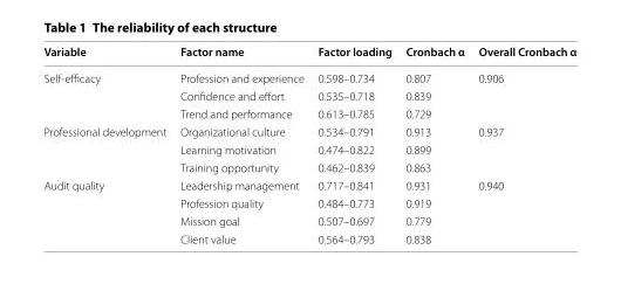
<table><thead><tr><td>Variable</td><td>Factor name</td><td>Factor loading</td><td>Cronbach α</td><td>Overall Cronbach α</td></tr></thead><tbody><tr><td rowspan="3">Self‑efficacy</td><td>Profession and experience</td><td>0.598–0.734</td><td>0.807</td><td rowspan="3">0.906</td></tr><tr><td>Confidence and effort</td><td>0.535–0.718</td><td>0.839</td></tr><tr><td>Trend and performance</td><td>0.613–0.785</td><td>0.729</td></tr><tr><td rowspan="3">Professional development</td><td>Organizational culture</td><td>0.534–0.791</td><td>0.913</td><td rowspan="3">0.937</td></tr><tr><td>Learning motivation</td><td>0.474–0.822</td><td>0.899</td></tr><tr><td>Training opportunity</td><td>0.462–0.839</td><td>0.863</td></tr><tr><td rowspan="4">Audit quality</td><td>Leadership management</td><td>0.717–0.841</td><td>0.931</td><td rowspan="4">0.940</td></tr><tr><td>Profession quality</td><td>0.484–0.773</td><td>0.919</td></tr><tr><td>Mission goal</td><td>0.507–0.697</td><td>0.779</td></tr><tr><td>Client value</td><td>0.564–0.793</td><td>0.838</td></tr></tbody></table>